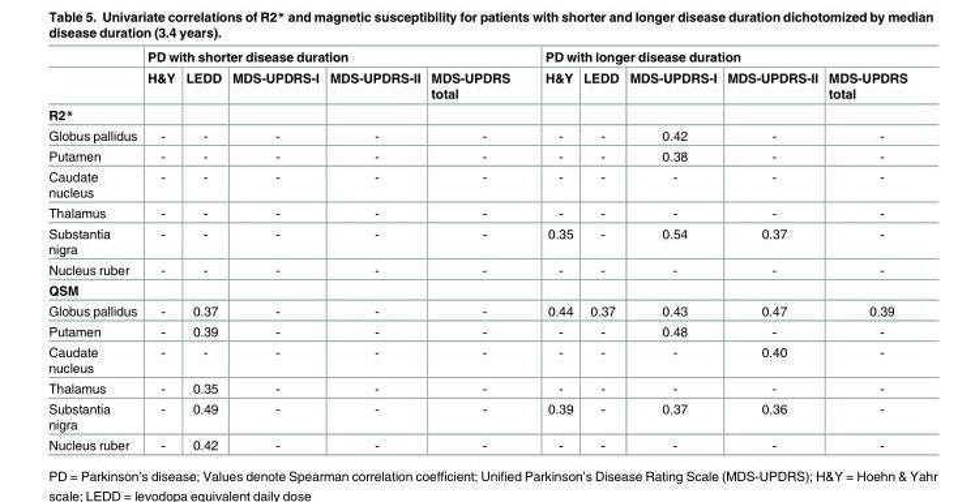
<table><thead><tr><td rowspan="2"></td><td colspan="5">PD with shorter disease duration</td><td colspan="5">PD with longer disease duration</td></tr><tr><td>H&amp;Y</td><td>LEDD</td><td>MDS-UPDRS-I</td><td>MDS-UPDRS-II</td><td>MDS-UPDRS total</td><td>H&amp;Y</td><td>LEDD</td><td>MDS-UPDRS-I</td><td>MDS-UPDRS-II</td><td>MDS-UPDRS total</td></tr></thead><tbody><tr><td colspan="11">R2*</td></tr><tr><td>Globus pallidus</td><td>-</td><td>-</td><td>-</td><td>-</td><td>-</td><td>-</td><td>-</td><td>0.42</td><td>-</td><td>-</td></tr><tr><td>Putamen</td><td>-</td><td>-</td><td>-</td><td>-</td><td>-</td><td>-</td><td>-</td><td>0.38</td><td>-</td><td>-</td></tr><tr><td>Caudate nucleus</td><td>-</td><td>-</td><td>-</td><td>-</td><td>-</td><td>-</td><td>-</td><td>-</td><td>-</td><td>-</td></tr><tr><td>Thalamus</td><td>-</td><td>-</td><td>-</td><td>-</td><td>-</td><td>-</td><td>-</td><td>-</td><td>-</td><td>-</td></tr><tr><td>Substantia nigra</td><td>-</td><td>-</td><td>-</td><td>-</td><td>-</td><td>0.35</td><td>-</td><td>0.54</td><td>0.37</td><td>-</td></tr><tr><td>Nucleus ruber</td><td>-</td><td>-</td><td>-</td><td>-</td><td>-</td><td>-</td><td>-</td><td>-</td><td>-</td><td>-</td></tr><tr><td colspan="11">QSM</td></tr><tr><td>Globus pallidus</td><td>-</td><td>0.37</td><td>-</td><td>-</td><td>-</td><td>0.44</td><td>0.37</td><td>0.43</td><td>0.47</td><td>0.39</td></tr><tr><td>Putamen</td><td>-</td><td>0.39</td><td>-</td><td>-</td><td>-</td><td>-</td><td>-</td><td>0.48</td><td>-</td><td>-</td></tr><tr><td>Caudate nucleus</td><td>-</td><td>-</td><td>-</td><td>-</td><td>-</td><td>-</td><td>-</td><td>-</td><td>0.40</td><td>-</td></tr><tr><td>Thalamus</td><td>-</td><td>0.35</td><td>-</td><td>-</td><td>-</td><td>-</td><td>-</td><td>-</td><td>-</td><td>-</td></tr><tr><td>Substantia nigra</td><td>-</td><td>0.49</td><td>-</td><td>-</td><td>-</td><td>0.39</td><td>-</td><td>0.37</td><td>0.36</td><td>-</td></tr><tr><td>Nucleus ruber</td><td>-</td><td>0.42</td><td>-</td><td>-</td><td>-</td><td>-</td><td>-</td><td>-</td><td>-</td><td>-</td></tr></tbody></table>